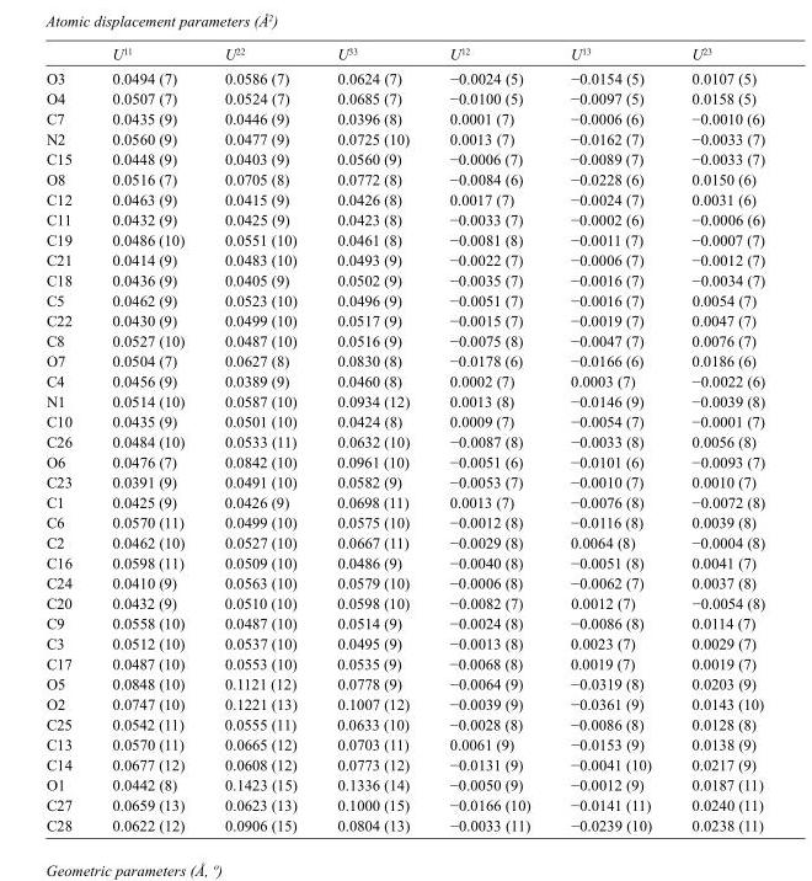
<table><thead><tr><td></td><td>U<sup>11</sup></td><td>U<sup>22</sup></td><td>U<sup>33</sup></td><td>U<sup>12</sup></td><td>U<sup>13</sup></td><td>U<sup>23</sup></td></tr></thead><tbody><tr><td>O3</td><td>0.0494 (7)</td><td>0.0586 (7)</td><td>0.0624 (7)</td><td>−0.0024 (5)</td><td>−0.0154 (5)</td><td>0.0107 (5)</td></tr><tr><td>O4</td><td>0.0507 (7)</td><td>0.0524 (7)</td><td>0.0685 (7)</td><td>−0.0100 (5)</td><td>−0.0097 (5)</td><td>0.0158 (5)</td></tr><tr><td>C7</td><td>0.0435 (9)</td><td>0.0446 (9)</td><td>0.0396 (8)</td><td>0.0001 (7)</td><td>−0.0006 (6)</td><td>−0.0010 (6)</td></tr><tr><td>N2</td><td>0.0560 (9)</td><td>0.0477 (9)</td><td>0.0725 (10)</td><td>0.0013 (7)</td><td>−0.0162 (7)</td><td>−0.0033 (7)</td></tr><tr><td>C15</td><td>0.0448 (9)</td><td>0.0403 (9)</td><td>0.0560 (9)</td><td>−0.0006 (7)</td><td>−0.0089 (7)</td><td>−0.0033 (7)</td></tr><tr><td>O8</td><td>0.0516 (7)</td><td>0.0705 (8)</td><td>0.0772 (8)</td><td>−0.0084 (6)</td><td>−0.0228 (6)</td><td>0.0150 (6)</td></tr><tr><td>C12</td><td>0.0463 (9)</td><td>0.0415 (9)</td><td>0.0426 (8)</td><td>0.0017 (7)</td><td>−0.0024 (7)</td><td>0.0031 (6)</td></tr><tr><td>C11</td><td>0.0432 (9)</td><td>0.0425 (9)</td><td>0.0423 (8)</td><td>−0.0033 (7)</td><td>−0.0002 (6)</td><td>−0.0006 (6)</td></tr><tr><td>C19</td><td>0.0486 (10)</td><td>0.0551 (10)</td><td>0.0461 (8)</td><td>−0.0081 (8)</td><td>−0.0011 (7)</td><td>−0.0007 (7)</td></tr><tr><td>C21</td><td>0.0414 (9)</td><td>0.0483 (10)</td><td>0.0493 (9)</td><td>−0.0022 (7)</td><td>−0.0006 (7)</td><td>−0.0012 (7)</td></tr><tr><td>C18</td><td>0.0436 (9)</td><td>0.0405 (9)</td><td>0.0502 (9)</td><td>−0.0035 (7)</td><td>−0.0016 (7)</td><td>−0.0034 (7)</td></tr><tr><td>C5</td><td>0.0462 (9)</td><td>0.0523 (10)</td><td>0.0496 (9)</td><td>−0.0051 (7)</td><td>−0.0016 (7)</td><td>0.0054 (7)</td></tr><tr><td>C22</td><td>0.0430 (9)</td><td>0.0499 (10)</td><td>0.0517 (9)</td><td>−0.0015 (7)</td><td>−0.0019 (7)</td><td>0.0047 (7)</td></tr><tr><td>C8</td><td>0.0527 (10)</td><td>0.0487 (10)</td><td>0.0516 (9)</td><td>−0.0075 (8)</td><td>−0.0047 (7)</td><td>0.0076 (7)</td></tr><tr><td>O7</td><td>0.0504 (7)</td><td>0.0627 (8)</td><td>0.0830 (8)</td><td>−0.0178 (6)</td><td>−0.0166 (6)</td><td>0.0186 (6)</td></tr><tr><td>C4</td><td>0.0456 (9)</td><td>0.0389 (9)</td><td>0.0460 (8)</td><td>0.0002 (7)</td><td>0.0003 (7)</td><td>−0.0022 (6)</td></tr><tr><td>N1</td><td>0.0514 (10)</td><td>0.0587 (10)</td><td>0.0934 (12)</td><td>0.0013 (8)</td><td>−0.0146 (9)</td><td>−0.0039 (8)</td></tr><tr><td>C10</td><td>0.0435 (9)</td><td>0.0501 (10)</td><td>0.0424 (8)</td><td>0.0009 (7)</td><td>−0.0054 (7)</td><td>−0.0001 (7)</td></tr><tr><td>C26</td><td>0.0484 (10)</td><td>0.0533 (11)</td><td>0.0632 (10)</td><td>−0.0087 (8)</td><td>−0.0033 (8)</td><td>0.0056 (8)</td></tr><tr><td>O6</td><td>0.0476 (7)</td><td>0.0842 (10)</td><td>0.0961 (10)</td><td>−0.0051 (6)</td><td>−0.0101 (6)</td><td>−0.0093 (7)</td></tr><tr><td>C23</td><td>0.0391 (9)</td><td>0.0491 (10)</td><td>0.0582 (9)</td><td>−0.0053 (7)</td><td>−0.0010 (7)</td><td>0.0010 (7)</td></tr><tr><td>C1</td><td>0.0425 (9)</td><td>0.0426 (9)</td><td>0.0698 (11)</td><td>0.0013 (7)</td><td>−0.0076 (8)</td><td>−0.0072 (8)</td></tr><tr><td>C6</td><td>0.0570 (11)</td><td>0.0499 (10)</td><td>0.0575 (10)</td><td>−0.0012 (8)</td><td>−0.0116 (8)</td><td>0.0039 (8)</td></tr><tr><td>C2</td><td>0.0462 (10)</td><td>0.0527 (10)</td><td>0.0667 (11)</td><td>−0.0029 (8)</td><td>0.0064 (8)</td><td>−0.0004 (8)</td></tr><tr><td>C16</td><td>0.0598 (11)</td><td>0.0509 (10)</td><td>0.0486 (9)</td><td>−0.0040 (8)</td><td>−0.0051 (8)</td><td>0.0041 (7)</td></tr><tr><td>C24</td><td>0.0410 (9)</td><td>0.0563 (10)</td><td>0.0579 (10)</td><td>−0.0006 (8)</td><td>−0.0062 (7)</td><td>0.0037 (8)</td></tr><tr><td>C20</td><td>0.0432 (9)</td><td>0.0510 (10)</td><td>0.0598 (10)</td><td>−0.0082 (7)</td><td>0.0012 (7)</td><td>−0.0054 (8)</td></tr><tr><td>C9</td><td>0.0558 (10)</td><td>0.0487 (10)</td><td>0.0514 (9)</td><td>−0.0024 (8)</td><td>−0.0086 (8)</td><td>0.0114 (7)</td></tr><tr><td>C3</td><td>0.0512 (10)</td><td>0.0537 (10)</td><td>0.0495 (9)</td><td>−0.0013 (8)</td><td>0.0023 (7)</td><td>0.0029 (7)</td></tr><tr><td>C17</td><td>0.0487 (10)</td><td>0.0553 (10)</td><td>0.0535 (9)</td><td>−0.0068 (8)</td><td>0.0019 (7)</td><td>0.0019 (7)</td></tr><tr><td>O5</td><td>0.0848 (10)</td><td>0.1121 (12)</td><td>0.0778 (9)</td><td>−0.0064 (9)</td><td>−0.0319 (8)</td><td>0.0203 (9)</td></tr><tr><td>O2</td><td>0.0747 (10)</td><td>0.1221 (13)</td><td>0.1007 (12)</td><td>−0.0039 (9)</td><td>−0.0361 (9)</td><td>0.0143 (10)</td></tr><tr><td>C25</td><td>0.0542 (11)</td><td>0.0555 (11)</td><td>0.0633 (10)</td><td>−0.0028 (8)</td><td>−0.0086 (8)</td><td>0.0128 (8)</td></tr><tr><td>C13</td><td>0.0570 (11)</td><td>0.0665 (12)</td><td>0.0703 (11)</td><td>0.0061 (9)</td><td>−0.0153 (9)</td><td>0.0138 (9)</td></tr><tr><td>C14</td><td>0.0677 (12)</td><td>0.0608 (12)</td><td>0.0773 (12)</td><td>−0.0131 (9)</td><td>−0.0041 (10)</td><td>0.0217 (9)</td></tr><tr><td>O1</td><td>0.0442 (8)</td><td>0.1423 (15)</td><td>0.1336 (14)</td><td>−0.0050 (9)</td><td>−0.0012 (9)</td><td>0.0187 (11)</td></tr><tr><td>C27</td><td>0.0659 (13)</td><td>0.0623 (13)</td><td>0.1000 (15)</td><td>−0.0166 (10)</td><td>−0.0141 (11)</td><td>0.0240 (11)</td></tr><tr><td>C28</td><td>0.0622 (12)</td><td>0.0906 (15)</td><td>0.0804 (13)</td><td>−0.0033 (11)</td><td>−0.0239 (10)</td><td>0.0238 (11)</td></tr></tbody></table>